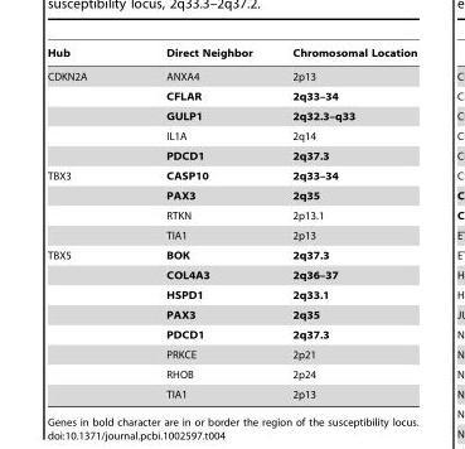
<table><thead><tr><td>Hub</td><td>Direct Neighbor</td><td>Chromosomal Location</td></tr></thead><tbody><tr><td rowspan="5">CDKN2A</td><td>ANXA4</td><td>2p13</td></tr><tr><td>CFLAR</td><td>2q33–34</td></tr><tr><td>GULP1</td><td>2q32.3–q33</td></tr><tr><td>IL1A</td><td>2q14</td></tr><tr><td>PDCD1</td><td>2q37.3</td></tr><tr><td rowspan="4">TBX3</td><td>CASP10</td><td>2q33–34</td></tr><tr><td>PAX3</td><td>2q35</td></tr><tr><td>RTKN</td><td>2p13.1</td></tr><tr><td>TIA1</td><td>2p13</td></tr><tr><td rowspan="8">TBX5</td><td>BOK</td><td>2q37.3</td></tr><tr><td>COL4A3</td><td>2q36–37</td></tr><tr><td>HSPD1</td><td>2q33.1</td></tr><tr><td>PAX3</td><td>2q35</td></tr><tr><td>PDCD1</td><td>2q37.3</td></tr><tr><td>PRKCE</td><td>2p21</td></tr><tr><td>RHOB</td><td>2p24</td></tr><tr><td>TIA1</td><td>2p13</td></tr></tbody></table>